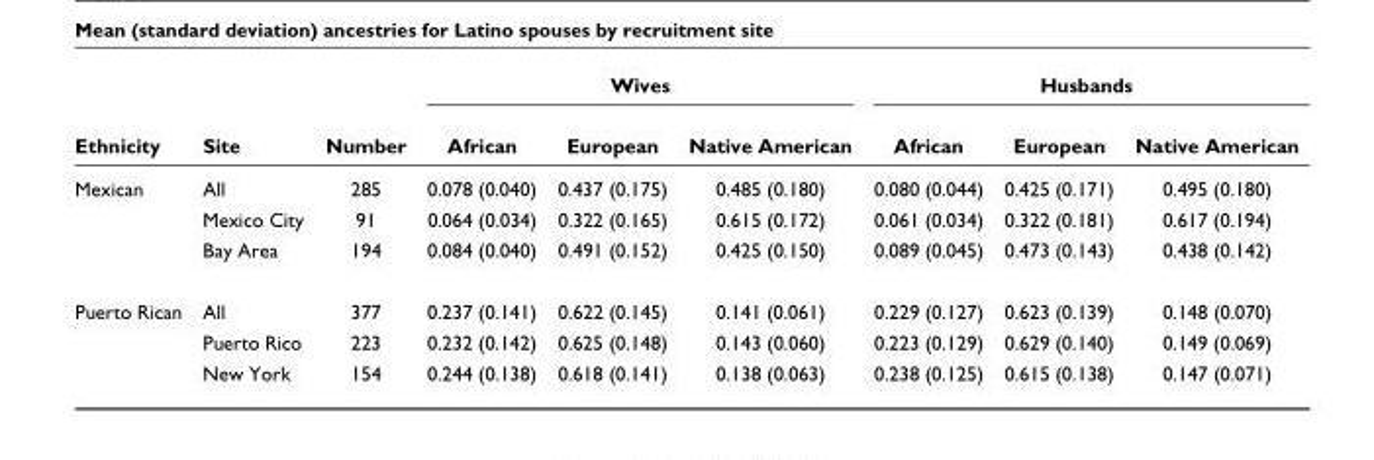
<table><thead><tr><td rowspan="2">Ethnicity</td><td rowspan="2">Site</td><td rowspan="2">Number</td><td colspan="3">Wives</td><td colspan="3">Husbands</td></tr><tr><td>African</td><td>European</td><td>Native American</td><td>African</td><td>European</td><td>Native American</td></tr></thead><tbody><tr><td rowspan="3">Mexican</td><td>All</td><td>285</td><td>0.078 (0.040)</td><td>0.437 (0.175)</td><td>0.485 (0.180)</td><td>0.080 (0.044)</td><td>0.425 (0.171)</td><td>0.495 (0.180)</td></tr><tr><td>Mexico City</td><td>91</td><td>0.064 (0.034)</td><td>0.322 (0.165)</td><td>0.615 (0.172)</td><td>0.061 (0.034)</td><td>0.322 (0.181)</td><td>0.617 (0.194)</td></tr><tr><td>Bay Area</td><td>194</td><td>0.084 (0.040)</td><td>0.491 (0.152)</td><td>0.425 (0.150)</td><td>0.089 (0.045)</td><td>0.473 (0.143)</td><td>0.438 (0.142)</td></tr><tr><td rowspan="3">Puerto Rican</td><td>All</td><td>377</td><td>0.237 (0.141)</td><td>0.622 (0.145)</td><td>0.141 (0.061)</td><td>0.229 (0.127)</td><td>0.623 (0.139)</td><td>0.148 (0.070)</td></tr><tr><td>Puerto Rico</td><td>223</td><td>0.232 (0.142)</td><td>0.625 (0.148)</td><td>0.143 (0.060)</td><td>0.223 (0.129)</td><td>0.629 (0.140)</td><td>0.149 (0.069)</td></tr><tr><td>New York</td><td>154</td><td>0.244 (0.138)</td><td>0.618 (0.141)</td><td>0.138 (0.063)</td><td>0.238 (0.125)</td><td>0.615 (0.138)</td><td>0.147 (0.071)</td></tr></tbody></table>